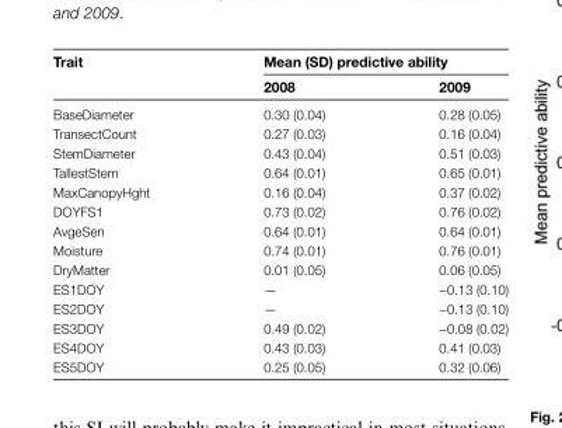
<table><thead><tr><td rowspan="2">Trait</td><td colspan="2">Mean (SD) predictive ability</td></tr><tr><td>2008</td><td>2009</td></tr></thead><tbody><tr><td>BaseDiameter</td><td>0.30 (0.04)</td><td>0.28 (0.05)</td></tr><tr><td>TransectCount</td><td>0.27 (0.03)</td><td>0.16 (0.04)</td></tr><tr><td>StemDiameter</td><td>0.43 (0.04)</td><td>0.51 (0.03)</td></tr><tr><td>TallestStem</td><td>0.64 (0.01)</td><td>0.65 (0.01)</td></tr><tr><td>MaxCanopyHght</td><td>0.16 (0.04)</td><td>0.37 (0.02)</td></tr><tr><td>DOYFS1</td><td>0.73 (0.02)</td><td>0.76 (0.02)</td></tr><tr><td>AvgeSen</td><td>0.64 (0.01)</td><td>0.64 (0.01)</td></tr><tr><td>Moisture</td><td>0.74 (0.01)</td><td>0.76 (0.01)</td></tr><tr><td>DryMatter</td><td>0.01 (0.05)</td><td>0.06 (0.05)</td></tr><tr><td>ES1DOY</td><td>—</td><td>−0.13 (0.10)</td></tr><tr><td>ES2DOY</td><td>—</td><td>−0.13 (0.10)</td></tr><tr><td>ES3DOY</td><td>0.49 (0.02)</td><td>−0.08 (0.02)</td></tr><tr><td>ES4DOY</td><td>0.43 (0.03)</td><td>0.41 (0.03)</td></tr><tr><td>ES5DOY</td><td>0.25 (0.05)</td><td>0.32 (0.06)</td></tr></tbody></table>